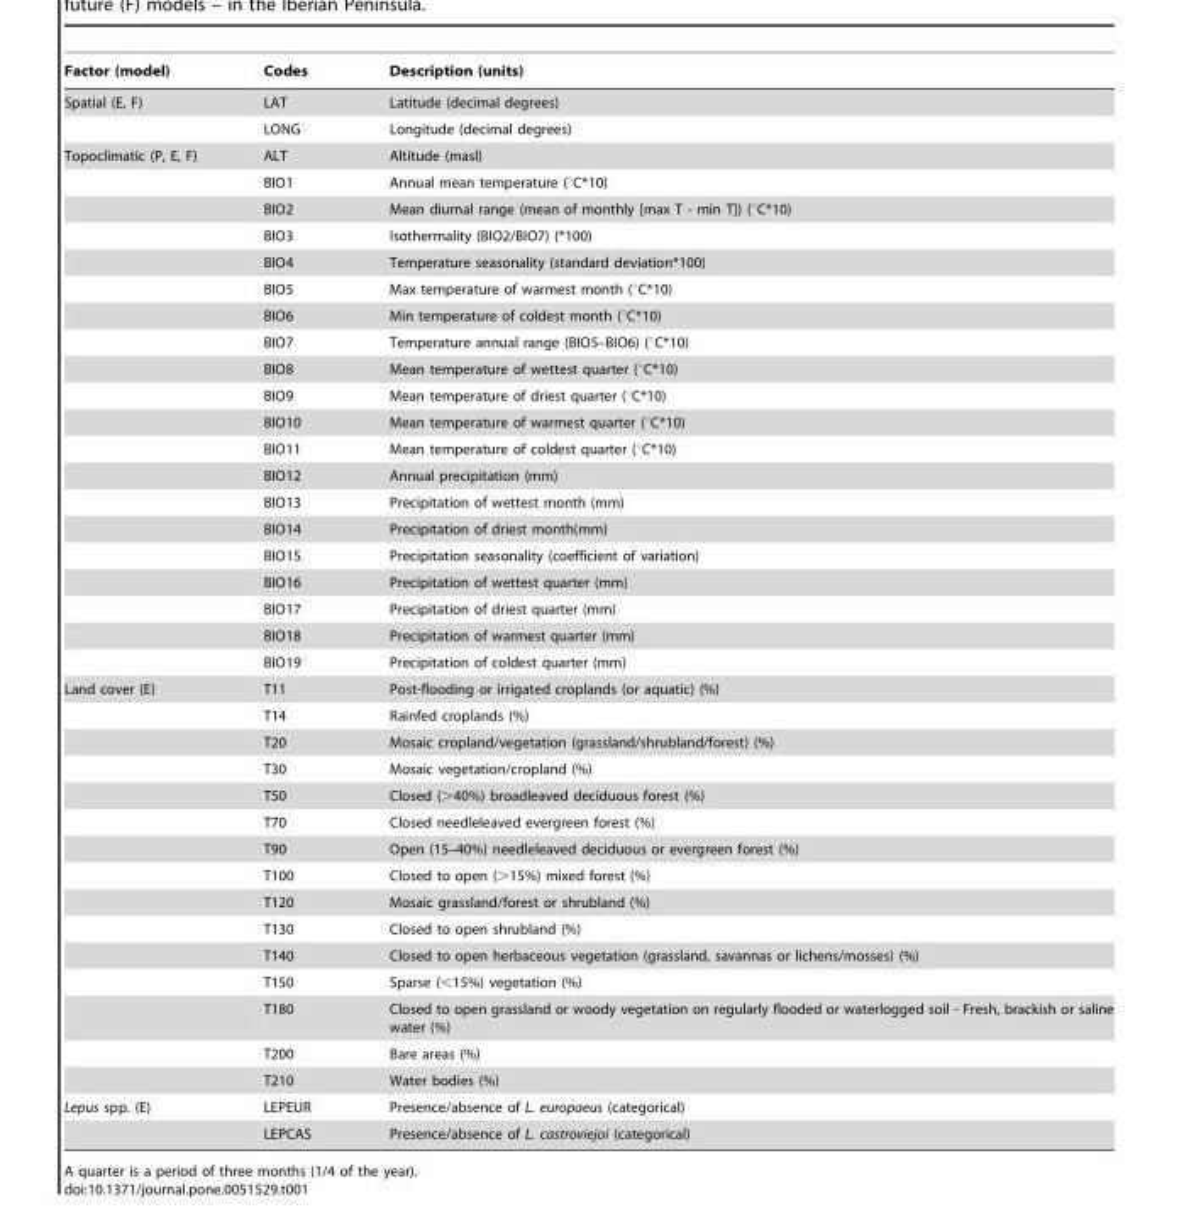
<table><thead><tr><td>Factor (model)</td><td>Codes</td><td>Description (units)</td></tr></thead><tbody><tr><td rowspan="2">Spatial (E, F)</td><td>LAT</td><td>Latitude (decimal degrees)</td></tr><tr><td>LONG</td><td>Longitude (decimal degrees)</td></tr><tr><td rowspan="20">Topoclimatic (P, E, F)</td><td>ALT</td><td>Altitude (masl)</td></tr><tr><td>BIO1</td><td>Annual mean temperature (°C*10)</td></tr><tr><td>BIO2</td><td>Mean diurnal range (mean of monthly [max T - min T]) (°C*10)</td></tr><tr><td>BIO3</td><td>Isothermality (BIO2/BIO7) (*100)</td></tr><tr><td>BIO4</td><td>Temperature seasonality (standard deviation*100)</td></tr><tr><td>BIO5</td><td>Max temperature of warmest month (°C*10)</td></tr><tr><td>BIO6</td><td>Min temperature of coldest month (°C*10)</td></tr><tr><td>BIO7</td><td>Temperature annual range (BIO5–BIO6) (°C*10)</td></tr><tr><td>BIO8</td><td>Mean temperature of wettest quarter (°C*10)</td></tr><tr><td>BIO9</td><td>Mean temperature of driest quarter (°C*10)</td></tr><tr><td>BIO10</td><td>Mean temperature of warmest quarter (°C*10)</td></tr><tr><td>BIO11</td><td>Mean temperature of coldest quarter (°C*10)</td></tr><tr><td>BIO12</td><td>Annual precipitation (mm)</td></tr><tr><td>BIO13</td><td>Precipitation of wettest month (mm)</td></tr><tr><td>BIO14</td><td>Precipitation of driest month(mm)</td></tr><tr><td>BIO15</td><td>Precipitation seasonality (coefficient of variation)</td></tr><tr><td>BIO16</td><td>Precipitation of wettest quarter (mm)</td></tr><tr><td>BIO17</td><td>Precipitation of driest quarter (mm)</td></tr><tr><td>BIO18</td><td>Precipitation of warmest quarter (mm)</td></tr><tr><td>BIO19</td><td>Precipitation of coldest quarter (mm)</td></tr><tr><td rowspan="15">Land cover (E)</td><td>T11</td><td>Post-flooding or irrigated croplands (or aquatic) (%)</td></tr><tr><td>T14</td><td>Rainfed croplands (%)</td></tr><tr><td>T20</td><td>Mosaic cropland/vegetation (grassland/shrubland/forest) (%)</td></tr><tr><td>T30</td><td>Mosaic vegetation/cropland (%)</td></tr><tr><td>T50</td><td>Closed (&gt;40%) broadleaved deciduous forest (%)</td></tr><tr><td>T70</td><td>Closed needleleaved evergreen forest (%)</td></tr><tr><td>T90</td><td>Open (15–40%) needleleaved deciduous or evergreen forest (%)</td></tr><tr><td>T100</td><td>Closed to open (&gt;15%) mixed forest (%)</td></tr><tr><td>T120</td><td>Mosaic grassland/forest or shrubland (%)</td></tr><tr><td>T130</td><td>Closed to open shrubland (%)</td></tr><tr><td>T140</td><td>Closed to open herbaceous vegetation (grassland, savannas or lichens/mosses) (%)</td></tr><tr><td>T150</td><td>Sparse (&lt;15%) vegetation (%)</td></tr><tr><td>T180</td><td>Closed to open grassland or woody vegetation on regularly flooded or waterlogged soil - Fresh, brackish or saline water (%)</td></tr><tr><td>T200</td><td>Bare areas (%)</td></tr><tr><td>T210</td><td>Water bodies (%)</td></tr><tr><td rowspan="2">Lepus spp. (E)</td><td>LEPEUR</td><td>Presence/absence of L. europaeus (categorical)</td></tr><tr><td>LEPCAS</td><td>Presence/absence of L. castroviejoi (categorical)</td></tr></tbody></table>